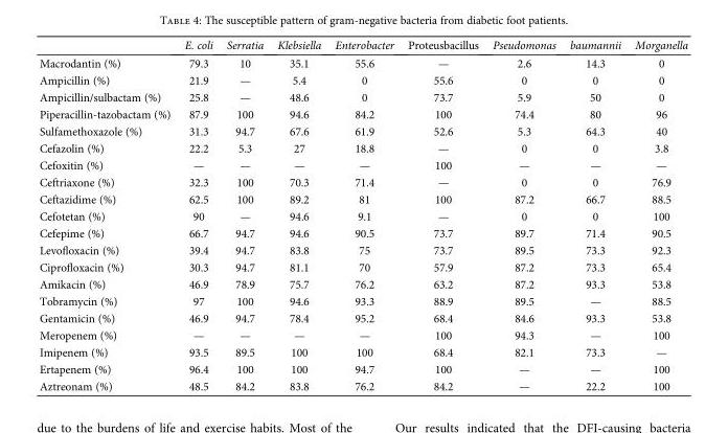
<table><thead><tr><td></td><td>E. coli</td><td>Serratia</td><td>Klebsiella</td><td>Enterobacter</td><td>Proteusbacillus</td><td>Pseudomonas</td><td>baumannii</td><td>Morganella</td></tr></thead><tbody><tr><td>Macrodantin (%)</td><td>79.3</td><td>10</td><td>35.1</td><td>55.6</td><td>—</td><td>2.6</td><td>14.3</td><td>0</td></tr><tr><td>Ampicillin (%)</td><td>21.9</td><td>—</td><td>5.4</td><td>0</td><td>55.6</td><td>0</td><td>0</td><td>0</td></tr><tr><td>Ampicillin/sulbactam (%)</td><td>25.8</td><td>—</td><td>48.6</td><td>0</td><td>73.7</td><td>5.9</td><td>50</td><td>0</td></tr><tr><td>Piperacillin-tazobactam (%)</td><td>87.9</td><td>100</td><td>94.6</td><td>84.2</td><td>100</td><td>74.4</td><td>80</td><td>96</td></tr><tr><td>Sulfamethoxazole (%)</td><td>31.3</td><td>94.7</td><td>67.6</td><td>61.9</td><td>52.6</td><td>5.3</td><td>64.3</td><td>40</td></tr><tr><td>Cefazolin (%)</td><td>22.2</td><td>5.3</td><td>27</td><td>18.8</td><td>—</td><td>0</td><td>0</td><td>3.8</td></tr><tr><td>Cefoxitin (%)</td><td>—</td><td>—</td><td>—</td><td>—</td><td>100</td><td>—</td><td>—</td><td>—</td></tr><tr><td>Ceftriaxone (%)</td><td>32.3</td><td>100</td><td>70.3</td><td>71.4</td><td>—</td><td>0</td><td>0</td><td>76.9</td></tr><tr><td>Ceftazidime (%)</td><td>62.5</td><td>100</td><td>89.2</td><td>81</td><td>100</td><td>87.2</td><td>66.7</td><td>88.5</td></tr><tr><td>Cefotetan (%)</td><td>90</td><td>—</td><td>94.6</td><td>9.1</td><td>—</td><td>0</td><td>0</td><td>100</td></tr><tr><td>Cefepime (%)</td><td>66.7</td><td>94.7</td><td>94.6</td><td>90.5</td><td>73.7</td><td>89.7</td><td>71.4</td><td>90.5</td></tr><tr><td>Levofloxacin (%)</td><td>39.4</td><td>94.7</td><td>83.8</td><td>75</td><td>73.7</td><td>89.5</td><td>73.3</td><td>92.3</td></tr><tr><td>Ciprofloxacin (%)</td><td>30.3</td><td>94.7</td><td>81.1</td><td>70</td><td>57.9</td><td>87.2</td><td>73.3</td><td>65.4</td></tr><tr><td>Amikacin (%)</td><td>46.9</td><td>78.9</td><td>75.7</td><td>76.2</td><td>63.2</td><td>87.2</td><td>93.3</td><td>53.8</td></tr><tr><td>Tobramycin (%)</td><td>97</td><td>100</td><td>94.6</td><td>93.3</td><td>88.9</td><td>89.5</td><td>—</td><td>88.5</td></tr><tr><td>Gentamicin (%)</td><td>46.9</td><td>94.7</td><td>78.4</td><td>95.2</td><td>68.4</td><td>84.6</td><td>93.3</td><td>53.8</td></tr><tr><td>Meropenem (%)</td><td>—</td><td>—</td><td>—</td><td>—</td><td>100</td><td>94.3</td><td>—</td><td>100</td></tr><tr><td>Imipenem (%)</td><td>93.5</td><td>89.5</td><td>100</td><td>100</td><td>68.4</td><td>82.1</td><td>73.3</td><td>—</td></tr><tr><td>Ertapenem (%)</td><td>96.4</td><td>100</td><td>100</td><td>94.7</td><td>100</td><td>—</td><td>—</td><td>100</td></tr><tr><td>Aztreonam (%)</td><td>48.5</td><td>84.2</td><td>83.8</td><td>76.2</td><td>84.2</td><td>—</td><td>22.2</td><td>100</td></tr></tbody></table>